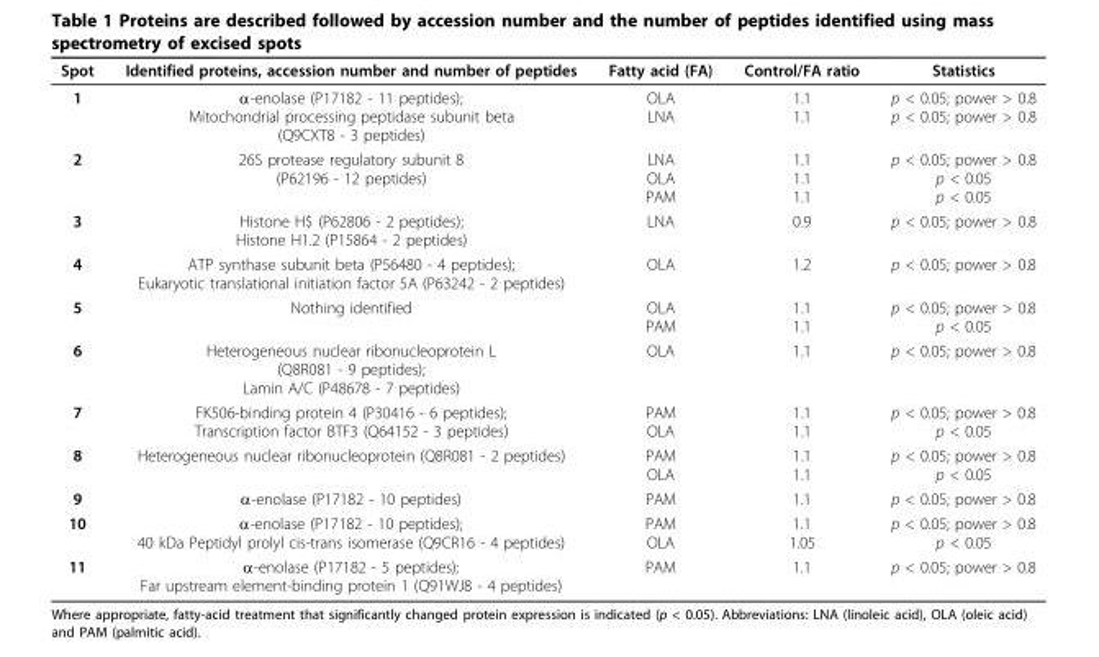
<table><thead><tr><td>Spot</td><td>Identified proteins, accession number and number of peptides</td><td>Fatty acid (FA)</td><td>Control/FA ratio</td><td>Statistics</td></tr></thead><tbody><tr><td>1</td><td>α-enolase (P17182 - 11 peptides); Mitochondrial processing peptidase subunit beta (Q9CXT8 - 3 peptides)</td><td>OLA LNA</td><td>1.1 1.1</td><td>p &lt; 0.05; power &gt; 0.8 p &lt; 0.05; power &gt; 0.8</td></tr><tr><td>2</td><td>26S protease regulatory subunit 8 (P62196 - 12 peptides)</td><td>LNA OLA PAM</td><td>1.1 1.1 1.1</td><td>p &lt; 0.05; power &gt; 0.8 p &lt; 0.05 p &lt; 0.05</td></tr><tr><td>3</td><td>Histone H$ (P62806 - 2 peptides); Histone H1.2 (P15864 - 2 peptides)</td><td>LNA</td><td>0.9</td><td>p &lt; 0.05; power &gt; 0.8</td></tr><tr><td>4</td><td>ATP synthase subunit beta (P56480 - 4 peptides); Eukaryotic translational initiation factor 5A (P63242 - 2 peptides)</td><td>OLA</td><td>1.2</td><td>p &lt; 0.05; power &gt; 0.8</td></tr><tr><td>5</td><td>Nothing identified</td><td>OLA PAM</td><td>1.1 1.1</td><td>p &lt; 0.05; power &gt; 0.8 p &lt; 0.05</td></tr><tr><td>6</td><td>Heterogeneous nuclear ribonucleoprotein L (Q8R081 - 9 peptides); Lamin A/C (P48678 - 7 peptides)</td><td>OLA</td><td>1.1</td><td>p &lt; 0.05; power &gt; 0.8</td></tr><tr><td>7</td><td>FK506-binding protein 4 (P30416 - 6 peptides); Transcription factor BTF3 (Q64152 - 3 peptides)</td><td>PAM OLA</td><td>1.1 1.1</td><td>p &lt; 0.05; power &gt; 0.8 p &lt; 0.05</td></tr><tr><td>8</td><td>Heterogeneous nuclear ribonucleoprotein (Q8R081 - 2 peptides)</td><td>PAM OLA</td><td>1.1 1.1</td><td>p &lt; 0.05; power &gt; 0.8 p &lt; 0.05</td></tr><tr><td>9</td><td>α-enolase (P17182 - 10 peptides)</td><td>PAM</td><td>1.1</td><td>p &lt; 0.05; power &gt; 0.8</td></tr><tr><td>10</td><td>α-enolase (P17182 - 10 peptides); 40 kDa Peptidyl prolyl cis-trans isomerase (Q9CR16 - 4 peptides)</td><td>PAM OLA</td><td>1.1 1.05</td><td>p &lt; 0.05; power &gt; 0.8 p &lt; 0.05</td></tr><tr><td>11</td><td>α-enolase (P17182 - 5 peptides); Far upstream element-binding protein 1 (Q91WJ8 - 4 peptides)</td><td>PAM</td><td>1.1</td><td>p &lt; 0.05; power &gt; 0.8</td></tr></tbody></table>